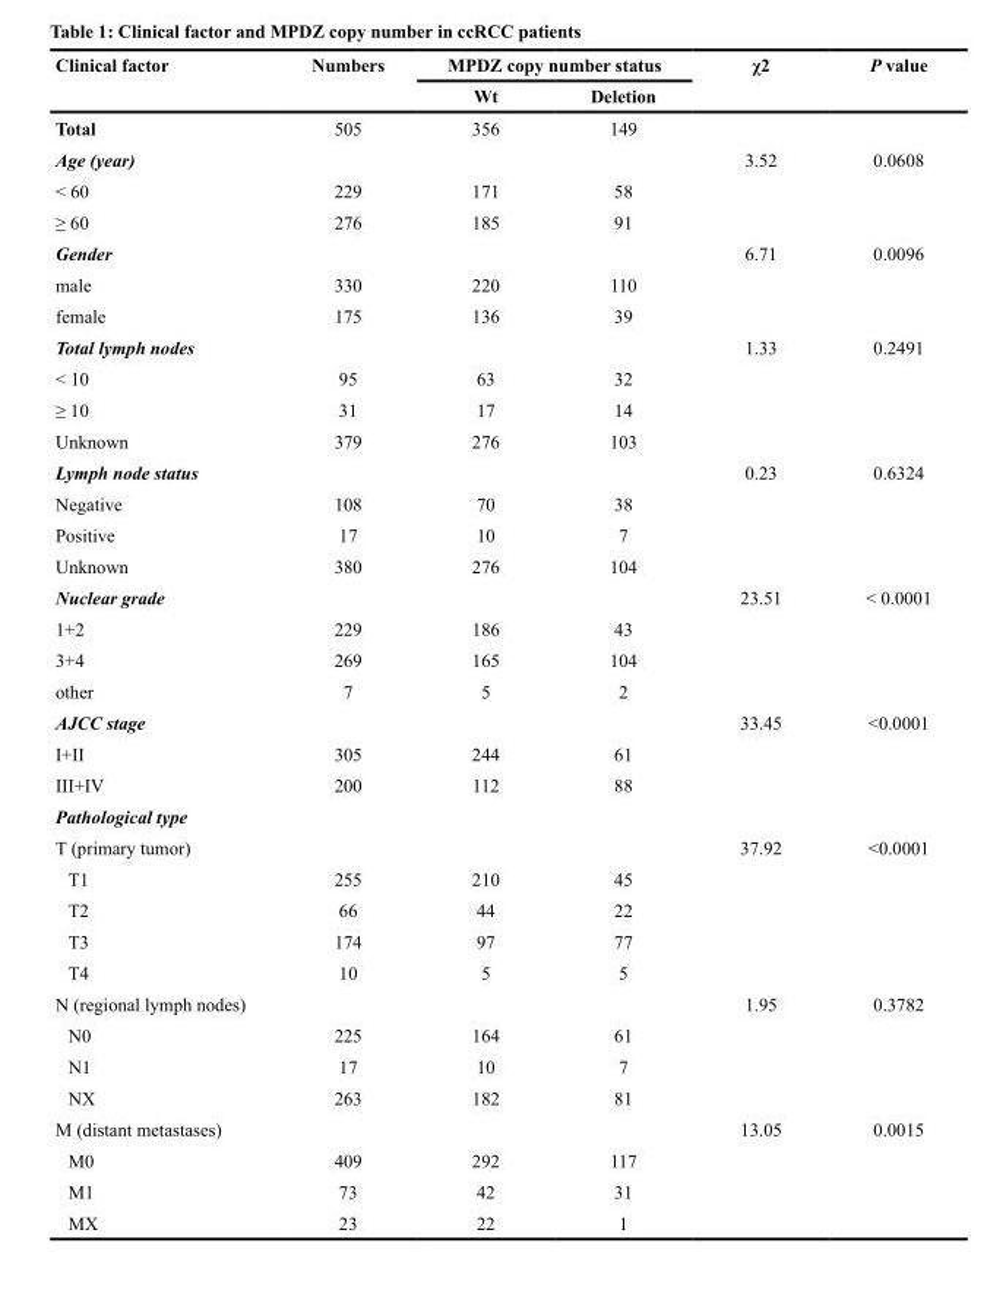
<table><thead><tr><td rowspan="2">Clinical factor</td><td rowspan="2">Numbers</td><td colspan="2">MPDZ copy number status</td><td rowspan="2">χ2</td><td rowspan="2">P value</td></tr><tr><td>Wt</td><td>Deletion</td></tr></thead><tbody><tr><td>Total</td><td>505</td><td>356</td><td>149</td><td></td><td></td></tr><tr><td>Age (year)</td><td></td><td></td><td></td><td>3.52</td><td>0.0608</td></tr><tr><td>&lt; 60</td><td>229</td><td>171</td><td>58</td><td></td><td></td></tr><tr><td>≥ 60</td><td>276</td><td>185</td><td>91</td><td></td><td></td></tr><tr><td>Gender</td><td></td><td></td><td></td><td>6.71</td><td>0.0096</td></tr><tr><td>male</td><td>330</td><td>220</td><td>110</td><td></td><td></td></tr><tr><td>female</td><td>175</td><td>136</td><td>39</td><td></td><td></td></tr><tr><td>Total lymph nodes</td><td></td><td></td><td></td><td>1.33</td><td>0.2491</td></tr><tr><td>&lt; 10</td><td>95</td><td>63</td><td>32</td><td></td><td></td></tr><tr><td>≥ 10</td><td>31</td><td>17</td><td>14</td><td></td><td></td></tr><tr><td>Unknown</td><td>379</td><td>276</td><td>103</td><td></td><td></td></tr><tr><td>Lymph node status</td><td></td><td></td><td></td><td>0.23</td><td>0.6324</td></tr><tr><td>Negative</td><td>108</td><td>70</td><td>38</td><td></td><td></td></tr><tr><td>Positive</td><td>17</td><td>10</td><td>7</td><td></td><td></td></tr><tr><td>Unknown</td><td>380</td><td>276</td><td>104</td><td></td><td></td></tr><tr><td>Nuclear grade</td><td></td><td></td><td></td><td>23.51</td><td>&lt; 0.0001</td></tr><tr><td>1+2</td><td>229</td><td>186</td><td>43</td><td></td><td></td></tr><tr><td>3+4</td><td>269</td><td>165</td><td>104</td><td></td><td></td></tr><tr><td>other</td><td>7</td><td>5</td><td>2</td><td></td><td></td></tr><tr><td>AJCC stage</td><td></td><td></td><td></td><td>33.45</td><td>&lt;0.0001</td></tr><tr><td>I+II</td><td>305</td><td>244</td><td>61</td><td></td><td></td></tr><tr><td>III+IV</td><td>200</td><td>112</td><td>88</td><td></td><td></td></tr><tr><td colspan="6">Pathological type</td></tr><tr><td>T (primary tumor)</td><td></td><td></td><td></td><td>37.92</td><td>&lt;0.0001</td></tr><tr><td>T1</td><td>255</td><td>210</td><td>45</td><td></td><td></td></tr><tr><td>T2</td><td>66</td><td>44</td><td>22</td><td></td><td></td></tr><tr><td>T3</td><td>174</td><td>97</td><td>77</td><td></td><td></td></tr><tr><td>T4</td><td>10</td><td>5</td><td>5</td><td></td><td></td></tr><tr><td>N (regional lymph nodes)</td><td></td><td></td><td></td><td>1.95</td><td>0.3782</td></tr><tr><td>N0</td><td>225</td><td>164</td><td>61</td><td></td><td></td></tr><tr><td>N1</td><td>17</td><td>10</td><td>7</td><td></td><td></td></tr><tr><td>NX</td><td>263</td><td>182</td><td>81</td><td></td><td></td></tr><tr><td>M (distant metastases)</td><td></td><td></td><td></td><td>13.05</td><td>0.0015</td></tr><tr><td>M0</td><td>409</td><td>292</td><td>117</td><td></td><td></td></tr><tr><td>M1</td><td>73</td><td>42</td><td>31</td><td></td><td></td></tr><tr><td>MX</td><td>23</td><td>22</td><td>1</td><td></td><td></td></tr></tbody></table>